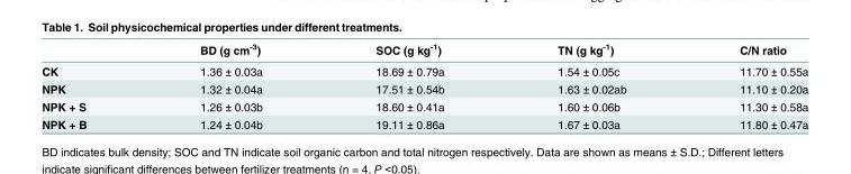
<table><thead><tr><td></td><td>BD (g cm<sup>-3</sup>)</td><td>SOC (g kg<sup>-1</sup>)</td><td>TN (g kg<sup>-1</sup>)</td><td>C/N ratio</td></tr></thead><tbody><tr><td>CK</td><td>1.36 ± 0.03a</td><td>18.69 ± 0.79a</td><td>1.54 ± 0.05c</td><td>11.70 ± 0.55a</td></tr><tr><td>NPK</td><td>1.32 ± 0.04a</td><td>17.51 ± 0.54b</td><td>1.63 ± 0.02ab</td><td>11.10 ± 0.20a</td></tr><tr><td>NPK + S</td><td>1.26 ± 0.03b</td><td>18.60 ± 0.41a</td><td>1.60 ± 0.06b</td><td>11.30 ± 0.58a</td></tr><tr><td>NPK + B</td><td>1.24 ± 0.04b</td><td>19.11 ± 0.86a</td><td>1.67 ± 0.03a</td><td>11.80 ± 0.47a</td></tr></tbody></table>